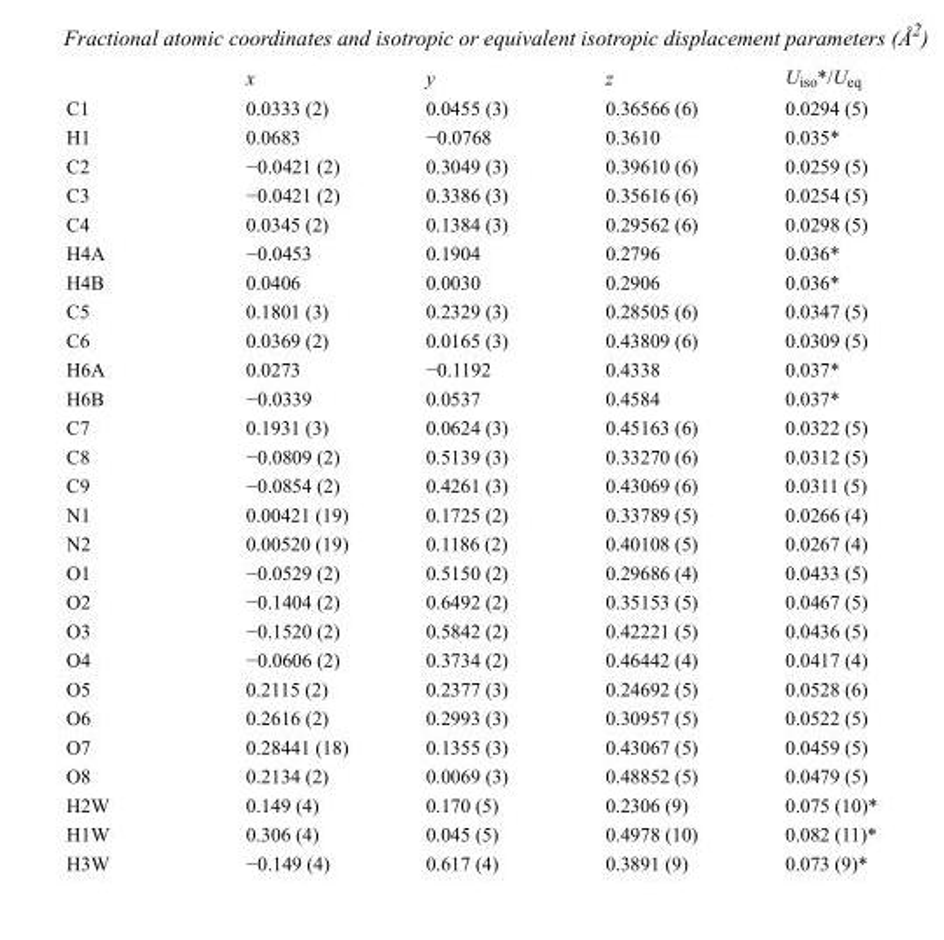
<table><thead><tr><td></td><td>x</td><td>y</td><td>z</td><td>U<sub>iso</sub>*/U<sub>eq</sub></td></tr></thead><tbody><tr><td>C1</td><td>0.0333 (2)</td><td>0.0455 (3)</td><td>0.36566 (6)</td><td>0.0294 (5)</td></tr><tr><td>H1</td><td>0.0683</td><td>−0.0768</td><td>0.3610</td><td>0.035*</td></tr><tr><td>C2</td><td>−0.0421 (2)</td><td>0.3049 (3)</td><td>0.39610 (6)</td><td>0.0259 (5)</td></tr><tr><td>C3</td><td>−0.0421 (2)</td><td>0.3386 (3)</td><td>0.35616 (6)</td><td>0.0254 (5)</td></tr><tr><td>C4</td><td>0.0345 (2)</td><td>0.1384 (3)</td><td>0.29562 (6)</td><td>0.0298 (5)</td></tr><tr><td>H4A</td><td>−0.0453</td><td>0.1904</td><td>0.2796</td><td>0.036*</td></tr><tr><td>H4B</td><td>0.0406</td><td>0.0030</td><td>0.2906</td><td>0.036*</td></tr><tr><td>C5</td><td>0.1801 (3)</td><td>0.2329 (3)</td><td>0.28505 (6)</td><td>0.0347 (5)</td></tr><tr><td>C6</td><td>0.0369 (2)</td><td>0.0165 (3)</td><td>0.43809 (6)</td><td>0.0309 (5)</td></tr><tr><td>H6A</td><td>0.0273</td><td>−0.1192</td><td>0.4338</td><td>0.037*</td></tr><tr><td>H6B</td><td>−0.0339</td><td>0.0537</td><td>0.4584</td><td>0.037*</td></tr><tr><td>C7</td><td>0.1931 (3)</td><td>0.0624 (3)</td><td>0.45163 (6)</td><td>0.0322 (5)</td></tr><tr><td>C8</td><td>−0.0809 (2)</td><td>0.5139 (3)</td><td>0.33270 (6)</td><td>0.0312 (5)</td></tr><tr><td>C9</td><td>−0.0854 (2)</td><td>0.4261 (3)</td><td>0.43069 (6)</td><td>0.0311 (5)</td></tr><tr><td>N1</td><td>0.00421 (19)</td><td>0.1725 (2)</td><td>0.33789 (5)</td><td>0.0266 (4)</td></tr><tr><td>N2</td><td>0.00520 (19)</td><td>0.1186 (2)</td><td>0.40108 (5)</td><td>0.0267 (4)</td></tr><tr><td>O1</td><td>−0.0529 (2)</td><td>0.5150 (2)</td><td>0.29686 (4)</td><td>0.0433 (5)</td></tr><tr><td>O2</td><td>−0.1404 (2)</td><td>0.6492 (2)</td><td>0.35153 (5)</td><td>0.0467 (5)</td></tr><tr><td>O3</td><td>−0.1520 (2)</td><td>0.5842 (2)</td><td>0.42221 (5)</td><td>0.0436 (5)</td></tr><tr><td>O4</td><td>−0.0606 (2)</td><td>0.3734 (2)</td><td>0.46442 (4)</td><td>0.0417 (4)</td></tr><tr><td>O5</td><td>0.2115 (2)</td><td>0.2377 (3)</td><td>0.24692 (5)</td><td>0.0528 (6)</td></tr><tr><td>O6</td><td>0.2616 (2)</td><td>0.2993 (3)</td><td>0.30957 (5)</td><td>0.0522 (5)</td></tr><tr><td>O7</td><td>0.28441 (18)</td><td>0.1355 (3)</td><td>0.43067 (5)</td><td>0.0459 (5)</td></tr><tr><td>O8</td><td>0.2134 (2)</td><td>0.0069 (3)</td><td>0.48852 (5)</td><td>0.0479 (5)</td></tr><tr><td>H2W</td><td>0.149 (4)</td><td>0.170 (5)</td><td>0.2306 (9)</td><td>0.075 (10)*</td></tr><tr><td>H1W</td><td>0.306 (4)</td><td>0.045 (5)</td><td>0.4978 (10)</td><td>0.082 (11)*</td></tr><tr><td>H3W</td><td>−0.149 (4)</td><td>0.617 (4)</td><td>0.3891 (9)</td><td>0.073 (9)*</td></tr></tbody></table>